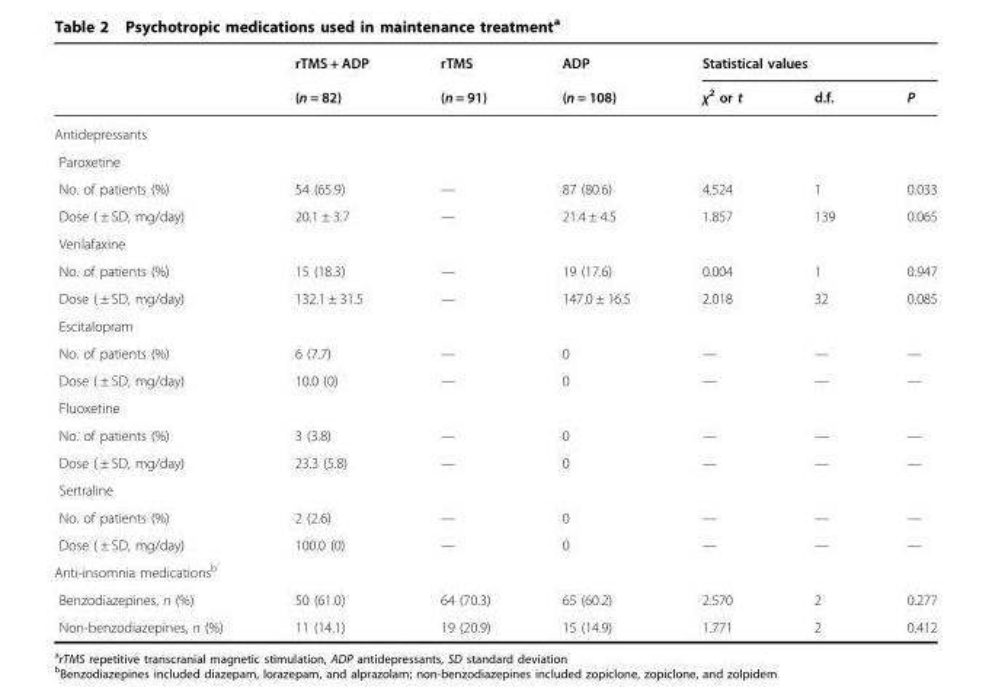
<table><thead><tr><td rowspan="2"></td><td rowspan="2">rTMS + ADP (n = 82)</td><td rowspan="2">rTMS (n = 91)</td><td rowspan="2">ADP (n = 108)</td><td colspan="3">Statistical values</td></tr><tr><td>χ<sup>2</sup> or t</td><td>d.f.</td><td>P</td></tr></thead><tbody><tr><td colspan="7">Antidepressants</td></tr><tr><td colspan="7">Paroxetine</td></tr><tr><td>No. of patients (%)</td><td>54 (65.9)</td><td>—</td><td>87 (80.6)</td><td>4.524</td><td>1</td><td>0.033</td></tr><tr><td>Dose ( ± SD, mg/day)</td><td>20.1 ± 3.7</td><td>—</td><td>21.4 ± 4.5</td><td>1.857</td><td>139</td><td>0.065</td></tr><tr><td colspan="7">Venlafaxine</td></tr><tr><td>No. of patients (%)</td><td>15 (18.3)</td><td>—</td><td>19 (17.6)</td><td>0.004</td><td>1</td><td>0.947</td></tr><tr><td>Dose ( ± SD, mg/day)</td><td>132.1 ± 31.5</td><td>—</td><td>147.0 ± 16.5</td><td>2.018</td><td>32</td><td>0.085</td></tr><tr><td colspan="7">Escitalopram</td></tr><tr><td>No. of patients (%)</td><td>6 (7.7)</td><td>—</td><td>0</td><td>—</td><td>—</td><td>—</td></tr><tr><td>Dose ( ± SD, mg/day)</td><td>10.0 (0)</td><td>—</td><td>0</td><td>—</td><td>—</td><td>—</td></tr><tr><td colspan="7">Fluoxetine</td></tr><tr><td>No. of patients (%)</td><td>3 (3.8)</td><td>—</td><td>0</td><td>—</td><td>—</td><td>—</td></tr><tr><td>Dose ( ± SD, mg/day)</td><td>23.3 (5.8)</td><td>—</td><td>0</td><td>—</td><td>—</td><td>—</td></tr><tr><td colspan="7">Sertraline</td></tr><tr><td>No. of patients (%)</td><td>2 (2.6)</td><td>—</td><td>0</td><td>—</td><td>—</td><td>—</td></tr><tr><td>Dose ( ± SD, mg/day)</td><td>100.0 (0)</td><td>—</td><td>0</td><td>—</td><td>—</td><td>—</td></tr><tr><td colspan="7">Anti-insomnia medications<sup>b</sup></td></tr><tr><td>Benzodiazepines, n (%)</td><td>50 (61.0)</td><td>64 (70.3)</td><td>65 (60.2)</td><td>2.570</td><td>2</td><td>0.277</td></tr><tr><td>Non-benzodiazepines, n (%)</td><td>11 (14.1)</td><td>19 (20.9)</td><td>15 (14.9)</td><td>1.771</td><td>2</td><td>0.412</td></tr></tbody></table>